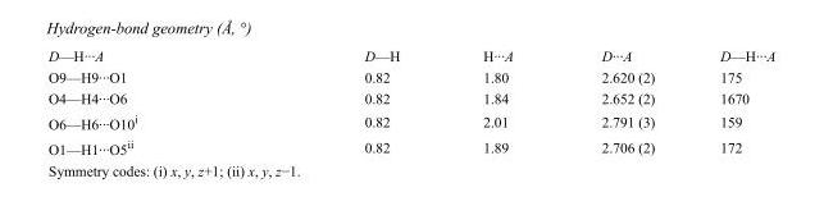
<table><tbody><tr><td>D—H···A</td><td>D—H</td><td>H···A</td><td>D···A</td><td>D—H···A</td></tr><tr><td>O9—H9···O1</td><td>0.82</td><td>1.80</td><td>2.620 (2)</td><td>175</td></tr><tr><td>O4—H4···O6</td><td>0.82</td><td>1.84</td><td>2.652 (2)</td><td>1670</td></tr><tr><td>O6—H6···O10<sup>i</sup></td><td>0.82</td><td>2.01</td><td>2.791 (3)</td><td>159</td></tr><tr><td>O1—H1···O5<sup>ii</sup></td><td>0.82</td><td>1.89</td><td>2.706 (2)</td><td>172</td></tr></tbody></table>